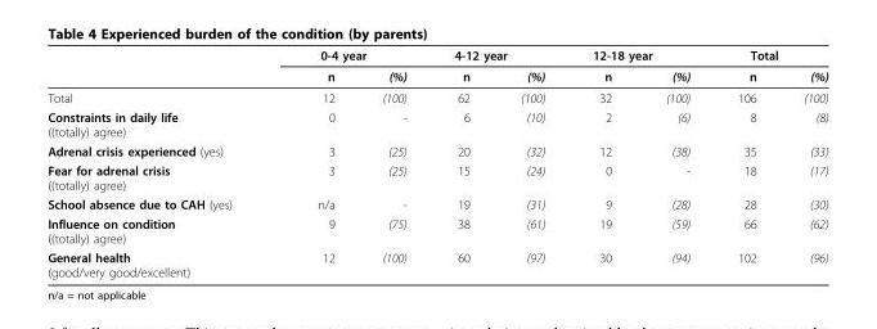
<table><thead><tr><td rowspan="2"></td><td colspan="2">0-4 year</td><td colspan="2">4-12 year</td><td colspan="2">12-18 year</td><td colspan="2">Total</td></tr><tr><td>n</td><td>(%)</td><td>n</td><td>(%)</td><td>n</td><td>(%)</td><td>n</td><td>(%)</td></tr></thead><tbody><tr><td>Total</td><td>12</td><td>(100)</td><td>62</td><td>(100)</td><td>32</td><td>(100)</td><td>106</td><td>(100)</td></tr><tr><td>Constraints in daily life ((totally) agree)</td><td>0</td><td>-</td><td>6</td><td>(10)</td><td>2</td><td>(6)</td><td>8</td><td>(8)</td></tr><tr><td>Adrenal crisis experienced (yes)</td><td>3</td><td>(25)</td><td>20</td><td>(32)</td><td>12</td><td>(38)</td><td>35</td><td>(33)</td></tr><tr><td>Fear for adrenal crisis ((totally) agree)</td><td>3</td><td>(25)</td><td>15</td><td>(24)</td><td>0</td><td>-</td><td>18</td><td>(17)</td></tr><tr><td>School absence due to CAH (yes)</td><td>n/a</td><td>-</td><td>19</td><td>(31)</td><td>9</td><td>(28)</td><td>28</td><td>(30)</td></tr><tr><td>Influence on condition ((totally) agree)</td><td>9</td><td>(75)</td><td>38</td><td>(61)</td><td>19</td><td>(59)</td><td>66</td><td>(62)</td></tr><tr><td>General health (good/very good/excellent)</td><td>12</td><td>(100)</td><td>60</td><td>(97)</td><td>30</td><td>(94)</td><td>102</td><td>(96)</td></tr></tbody></table>